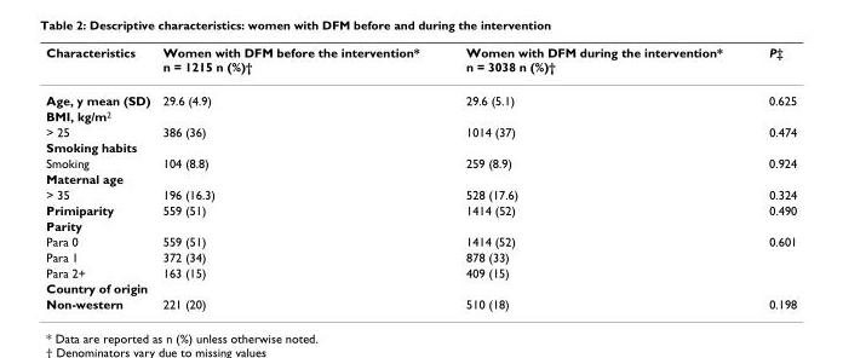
<table><thead><tr><td>Characteristics</td><td>Women with DFM before the intervention* n = 1215 n (%)†</td><td>Women with DFM during the intervention* n = 3038 n (%)†</td><td>P‡</td></tr></thead><tbody><tr><td>Age, y mean (SD)</td><td>29.6 (4.9)</td><td>29.6 (5.1)</td><td>0.625</td></tr><tr><td colspan="4">BMI, kg/m<sup>2</sup></td></tr><tr><td>&gt; 25</td><td>386 (36)</td><td>1014 (37)</td><td>0.474</td></tr><tr><td colspan="4">Smoking habits</td></tr><tr><td>Smoking</td><td>104 (8.8)</td><td>259 (8.9)</td><td>0.924</td></tr><tr><td colspan="4">Maternal age</td></tr><tr><td>&gt; 35</td><td>196 (16.3)</td><td>528 (17.6)</td><td>0.324</td></tr><tr><td>Primiparity</td><td>559 (51)</td><td>1414 (52)</td><td>0.490</td></tr><tr><td colspan="4">Parity</td></tr><tr><td>Para 0</td><td>559 (51)</td><td>1414 (52)</td><td>0.601</td></tr><tr><td>Para 1</td><td>372 (34)</td><td>878 (33)</td><td></td></tr><tr><td>Para 2+</td><td>163 (15)</td><td>409 (15)</td><td></td></tr><tr><td colspan="4">Country of origin</td></tr><tr><td>Non-western</td><td>221 (20)</td><td>510 (18)</td><td>0.198</td></tr></tbody></table>